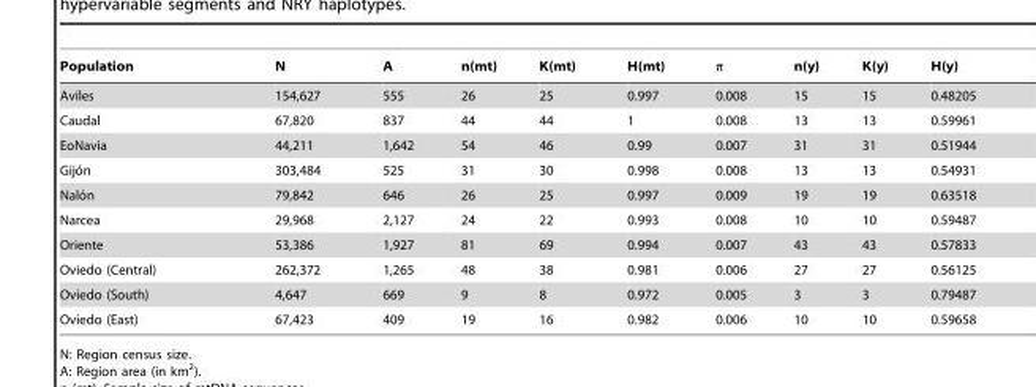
<table><thead><tr><td>Population</td><td>N</td><td>A</td><td>n(mt)</td><td>K(mt)</td><td>H(mt)</td><td>π</td><td>n(y)</td><td>K(y)</td><td>H(y)</td></tr></thead><tbody><tr><td>Aviles</td><td>154,627</td><td>555</td><td>26</td><td>25</td><td>0.997</td><td>0.008</td><td>15</td><td>15</td><td>0.48205</td></tr><tr><td>Caudal</td><td>67,820</td><td>837</td><td>44</td><td>44</td><td>1</td><td>0.008</td><td>13</td><td>13</td><td>0.59961</td></tr><tr><td>EoNavia</td><td>44,211</td><td>1,642</td><td>54</td><td>46</td><td>0.99</td><td>0.007</td><td>31</td><td>31</td><td>0.51944</td></tr><tr><td>Gijo´n</td><td>303,484</td><td>525</td><td>31</td><td>30</td><td>0.998</td><td>0.008</td><td>13</td><td>13</td><td>0.54931</td></tr><tr><td>Nalo´n</td><td>79,842</td><td>646</td><td>26</td><td>25</td><td>0.997</td><td>0.009</td><td>19</td><td>19</td><td>0.63518</td></tr><tr><td>Narcea</td><td>29,968</td><td>2,127</td><td>24</td><td>22</td><td>0.993</td><td>0.008</td><td>10</td><td>10</td><td>0.59487</td></tr><tr><td>Oriente</td><td>53,386</td><td>1,927</td><td>81</td><td>69</td><td>0.994</td><td>0.007</td><td>43</td><td>43</td><td>0.57833</td></tr><tr><td>Oviedo (Central)</td><td>262,372</td><td>1,265</td><td>48</td><td>38</td><td>0.981</td><td>0.006</td><td>27</td><td>27</td><td>0.56125</td></tr><tr><td>Oviedo (South)</td><td>4,647</td><td>669</td><td>9</td><td>8</td><td>0.972</td><td>0.005</td><td>3</td><td>3</td><td>0.79487</td></tr><tr><td>Oviedo (East)</td><td>67,423</td><td>409</td><td>19</td><td>16</td><td>0.982</td><td>0.006</td><td>10</td><td>10</td><td>0.59658</td></tr></tbody></table>